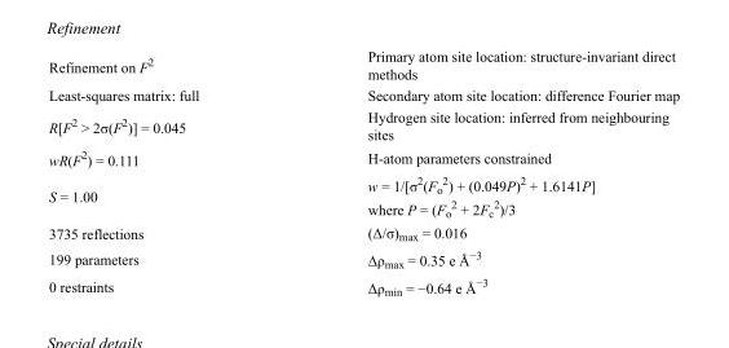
<table><tbody><tr><td>Refinement on F<sup>2</sup></td><td>Primary atom site location: structure-invariant direct methods</td></tr><tr><td>Least-squares matrix: full</td><td>Secondary atom site location: difference Fourier map</td></tr><tr><td>R[F<sup>2</sup> &gt; 2σ(F<sup>2</sup>)] = 0.045</td><td>Hydrogen site location: inferred from neighbouring sites</td></tr><tr><td>wR(F<sup>2</sup>) = 0.111</td><td>H-atom parameters constrained</td></tr><tr><td>S = 1.00</td><td>w = 1/[σ<sup>2</sup>(F<sub>o</sub> <sup>2</sup>) + (0.049P)<sup>2</sup> + 1.6141P] where P = (F<sub>o</sub> <sup>2</sup> + 2F<sub>c</sub> <sup>2</sup>)/3</td></tr><tr><td>3735 reflections</td><td>(Δ/σ)<sub>max</sub> = 0.016</td></tr><tr><td>199 parameters</td><td>Δρ<sub>max</sub> = 0.35 e Å<sup>−3</sup></td></tr><tr><td>0 restraints</td><td>Δρ<sub>min</sub> = −0.64 e Å<sup>−3</sup></td></tr></tbody></table>